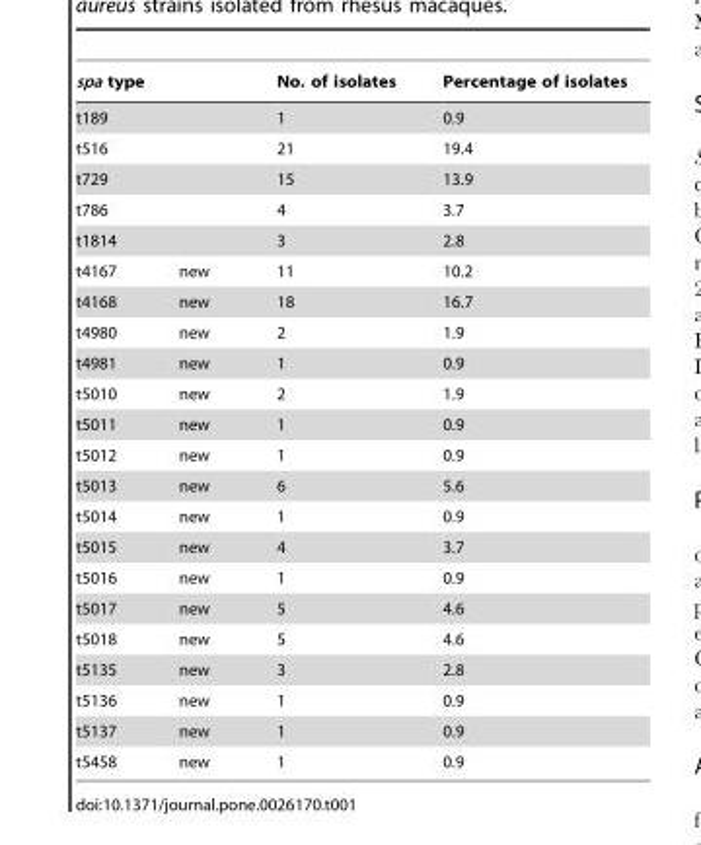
<table><thead><tr><td>spa type</td><td></td><td>No. of isolates</td><td>Percentage of isolates</td></tr></thead><tbody><tr><td>t189</td><td></td><td>1</td><td>0.9</td></tr><tr><td>t516</td><td></td><td>21</td><td>19.4</td></tr><tr><td>t729</td><td></td><td>15</td><td>13.9</td></tr><tr><td>t786</td><td></td><td>4</td><td>3.7</td></tr><tr><td>t1814</td><td></td><td>3</td><td>2.8</td></tr><tr><td>t4167</td><td>new</td><td>11</td><td>10.2</td></tr><tr><td>t4168</td><td>new</td><td>18</td><td>16.7</td></tr><tr><td>t4980</td><td>new</td><td>2</td><td>1.9</td></tr><tr><td>t4981</td><td>new</td><td>1</td><td>0.9</td></tr><tr><td>t5010</td><td>new</td><td>2</td><td>1.9</td></tr><tr><td>t5011</td><td>new</td><td>1</td><td>0.9</td></tr><tr><td>t5012</td><td>new</td><td>1</td><td>0.9</td></tr><tr><td>t5013</td><td>new</td><td>6</td><td>5.6</td></tr><tr><td>t5014</td><td>new</td><td>1</td><td>0.9</td></tr><tr><td>t5015</td><td>new</td><td>4</td><td>3.7</td></tr><tr><td>t5016</td><td>new</td><td>1</td><td>0.9</td></tr><tr><td>t5017</td><td>new</td><td>5</td><td>4.6</td></tr><tr><td>t5018</td><td>new</td><td>5</td><td>4.6</td></tr><tr><td>t5135</td><td>new</td><td>3</td><td>2.8</td></tr><tr><td>t5136</td><td>new</td><td>1</td><td>0.9</td></tr><tr><td>t5137</td><td>new</td><td>1</td><td>0.9</td></tr><tr><td>t5458</td><td>new</td><td>1</td><td>0.9</td></tr></tbody></table>